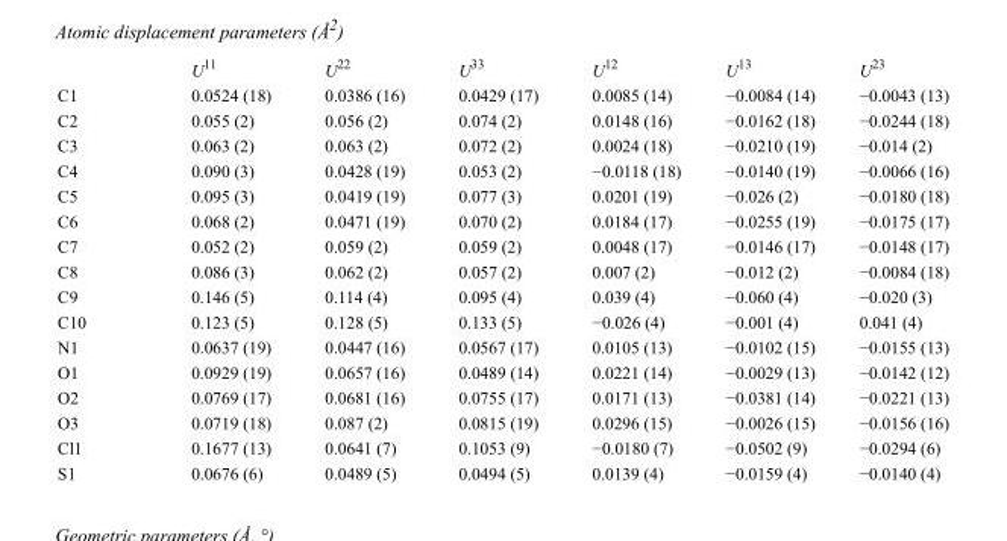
<table><thead><tr><td></td><td>U<sup>11</sup></td><td>U<sup>22</sup></td><td>U<sup>33</sup></td><td>U<sup>12</sup></td><td>U<sup>13</sup></td><td>U<sup>23</sup></td></tr></thead><tbody><tr><td>C1</td><td>0.0524 (18)</td><td>0.0386 (16)</td><td>0.0429 (17)</td><td>0.0085 (14)</td><td>−0.0084 (14)</td><td>−0.0043 (13)</td></tr><tr><td>C2</td><td>0.055 (2)</td><td>0.056 (2)</td><td>0.074 (2)</td><td>0.0148 (16)</td><td>−0.0162 (18)</td><td>−0.0244 (18)</td></tr><tr><td>C3</td><td>0.063 (2)</td><td>0.063 (2)</td><td>0.072 (2)</td><td>0.0024 (18)</td><td>−0.0210 (19)</td><td>−0.014 (2)</td></tr><tr><td>C4</td><td>0.090 (3)</td><td>0.0428 (19)</td><td>0.053 (2)</td><td>−0.0118 (18)</td><td>−0.0140 (19)</td><td>−0.0066 (16)</td></tr><tr><td>C5</td><td>0.095 (3)</td><td>0.0419 (19)</td><td>0.077 (3)</td><td>0.0201 (19)</td><td>−0.026 (2)</td><td>−0.0180 (18)</td></tr><tr><td>C6</td><td>0.068 (2)</td><td>0.0471 (19)</td><td>0.070 (2)</td><td>0.0184 (17)</td><td>−0.0255 (19)</td><td>−0.0175 (17)</td></tr><tr><td>C7</td><td>0.052 (2)</td><td>0.059 (2)</td><td>0.059 (2)</td><td>0.0048 (17)</td><td>−0.0146 (17)</td><td>−0.0148 (17)</td></tr><tr><td>C8</td><td>0.086 (3)</td><td>0.062 (2)</td><td>0.057 (2)</td><td>0.007 (2)</td><td>−0.012 (2)</td><td>−0.0084 (18)</td></tr><tr><td>C9</td><td>0.146 (5)</td><td>0.114 (4)</td><td>0.095 (4)</td><td>0.039 (4)</td><td>−0.060 (4)</td><td>−0.020 (3)</td></tr><tr><td>C10</td><td>0.123 (5)</td><td>0.128 (5)</td><td>0.133 (5)</td><td>−0.026 (4)</td><td>−0.001 (4)</td><td>0.041 (4)</td></tr><tr><td>N1</td><td>0.0637 (19)</td><td>0.0447 (16)</td><td>0.0567 (17)</td><td>0.0105 (13)</td><td>−0.0102 (15)</td><td>−0.0155 (13)</td></tr><tr><td>O1</td><td>0.0929 (19)</td><td>0.0657 (16)</td><td>0.0489 (14)</td><td>0.0221 (14)</td><td>−0.0029 (13)</td><td>−0.0142 (12)</td></tr><tr><td>O2</td><td>0.0769 (17)</td><td>0.0681 (16)</td><td>0.0755 (17)</td><td>0.0171 (13)</td><td>−0.0381 (14)</td><td>−0.0221 (13)</td></tr><tr><td>O3</td><td>0.0719 (18)</td><td>0.087 (2)</td><td>0.0815 (19)</td><td>0.0296 (15)</td><td>−0.0026 (15)</td><td>−0.0156 (16)</td></tr><tr><td>Cl1</td><td>0.1677 (13)</td><td>0.0641 (7)</td><td>0.1053 (9)</td><td>−0.0180 (7)</td><td>−0.0502 (9)</td><td>−0.0294 (6)</td></tr><tr><td>S1</td><td>0.0676 (6)</td><td>0.0489 (5)</td><td>0.0494 (5)</td><td>0.0139 (4)</td><td>−0.0159 (4)</td><td>−0.0140 (4)</td></tr></tbody></table>